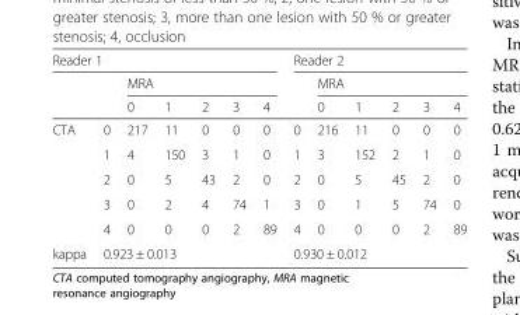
<table><thead><tr><td colspan="7">Reader 1</td><td colspan="6">Reader 2</td></tr><tr><td rowspan="2"></td><td rowspan="2"></td><td colspan="5">MRA</td><td rowspan="2"></td><td colspan="5">MRA</td></tr><tr><td>0</td><td>1</td><td>2</td><td>3</td><td>4</td><td>0</td><td>1</td><td>2</td><td>3</td><td>4</td></tr></thead><tbody><tr><td rowspan="5">CTA</td><td>0</td><td>217</td><td>11</td><td>0</td><td>0</td><td>0</td><td>0</td><td>216</td><td>11</td><td>0</td><td>0</td><td>0</td></tr><tr><td>1</td><td>4</td><td>150</td><td>3</td><td>1</td><td>0</td><td>1</td><td>3</td><td>152</td><td>2</td><td>1</td><td>0</td></tr><tr><td>2</td><td>0</td><td>5</td><td>43</td><td>2</td><td>0</td><td>2</td><td>0</td><td>5</td><td>45</td><td>2</td><td>0</td></tr><tr><td>3</td><td>0</td><td>2</td><td>4</td><td>74</td><td>1</td><td>3</td><td>0</td><td>1</td><td>5</td><td>74</td><td>0</td></tr><tr><td>4</td><td>0</td><td>0</td><td>0</td><td>2</td><td>89</td><td>4</td><td>0</td><td>0</td><td>0</td><td>2</td><td>89</td></tr><tr><td>kappa</td><td colspan="6">0.923 ± 0.013</td><td colspan="6">0.930 ± 0.012</td></tr></tbody></table>